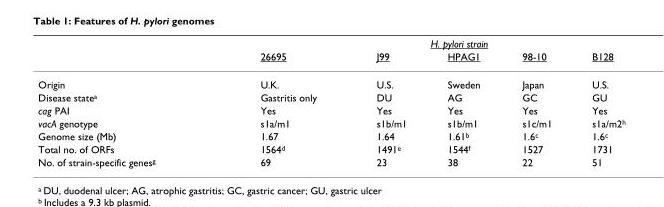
<table><thead><tr><td rowspan="2"></td><td colspan="5">H. pylori strain</td></tr><tr><td>26695</td><td>J99</td><td>HPAG1</td><td>98-10</td><td>B128</td></tr></thead><tbody><tr><td>Origin</td><td>U.K.</td><td>U.S.</td><td>Sweden</td><td>Japan</td><td>U.S.</td></tr><tr><td>Disease state<sup>a</sup></td><td>Gastritis only</td><td>DU</td><td>AG</td><td>GC</td><td>GU</td></tr><tr><td>cag PAI</td><td>Yes</td><td>Yes</td><td>Yes</td><td>Yes</td><td>Yes</td></tr><tr><td>vacA genotype</td><td>s1a/m1</td><td>s1b/m1</td><td>s1b/m1</td><td>s1c/m1</td><td>s1a/m2<sup>h</sup></td></tr><tr><td>Genome size (Mb)</td><td>1.67</td><td>1.64</td><td>1.61<sup>b</sup></td><td>1.6<sup>c</sup></td><td>1.6<sup>c</sup></td></tr><tr><td>Total no. of ORFs</td><td>1564<sup>d</sup></td><td>1491<sup>e</sup></td><td>1544<sup>f</sup></td><td>1527</td><td>1731</td></tr><tr><td>No. of strain-specific genes<sup>g</sup></td><td>69</td><td>23</td><td>38</td><td>22</td><td>51</td></tr></tbody></table>